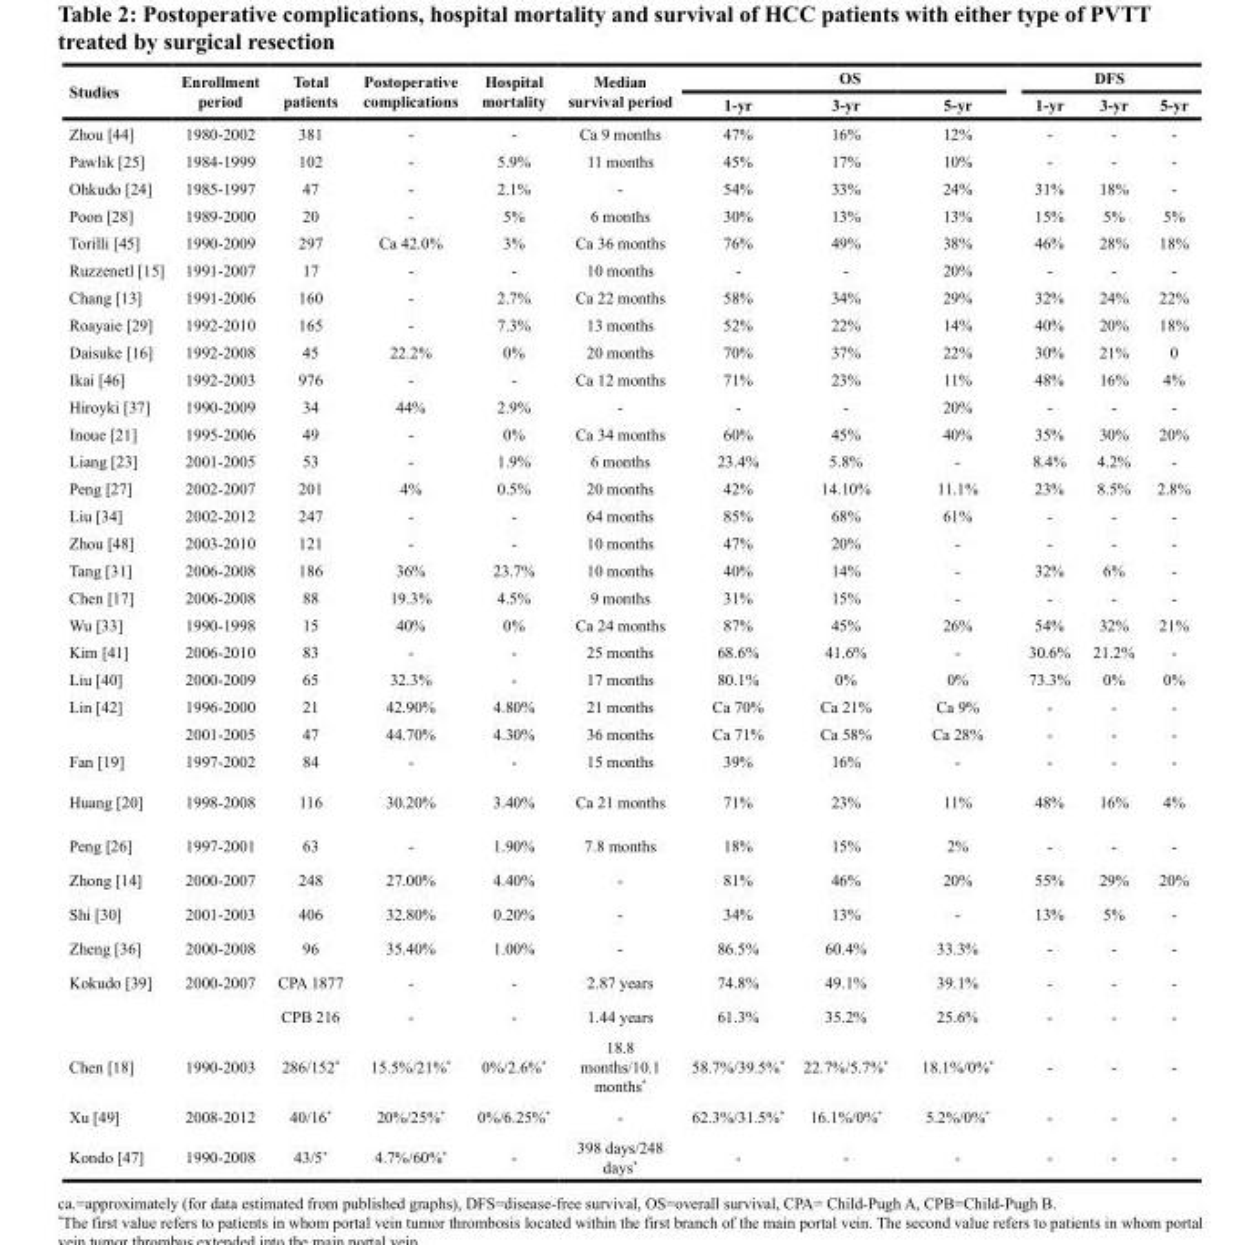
<table><thead><tr><td rowspan="2">Studies</td><td rowspan="2">Enrollment period</td><td rowspan="2">Total patients</td><td rowspan="2">Postoperative complications</td><td rowspan="2">Hospital mortality</td><td rowspan="2">Median survival period</td><td colspan="3">OS</td><td colspan="3">DFS</td></tr><tr><td>1-yr</td><td>3-yr</td><td>5-yr</td><td>1-yr</td><td>3-yr</td><td>5-yr</td></tr></thead><tbody><tr><td>Zhou [44]</td><td>1980-2002</td><td>381</td><td>-</td><td>-</td><td>Ca 9 months</td><td>47%</td><td>16%</td><td>12%</td><td>-</td><td>-</td><td>-</td></tr><tr><td>Pawlik [25]</td><td>1984-1999</td><td>102</td><td>-</td><td>5.9%</td><td>11 months</td><td>45%</td><td>17%</td><td>10%</td><td>-</td><td>-</td><td>-</td></tr><tr><td>Ohkudo [24]</td><td>1985-1997</td><td>47</td><td>-</td><td>2.1%</td><td>-</td><td>54%</td><td>33%</td><td>24%</td><td>31%</td><td>18%</td><td>-</td></tr><tr><td>Poon [28]</td><td>1989-2000</td><td>20</td><td>-</td><td>5%</td><td>6 months</td><td>30%</td><td>13%</td><td>13%</td><td>15%</td><td>5%</td><td>5%</td></tr><tr><td>Torilli [45]</td><td>1990-2009</td><td>297</td><td>Ca 42.0%</td><td>3%</td><td>Ca 36 months</td><td>76%</td><td>49%</td><td>38%</td><td>46%</td><td>28%</td><td>18%</td></tr><tr><td>Ruzzenetl [15]</td><td>1991-2007</td><td>17</td><td>-</td><td>-</td><td>10 months</td><td>-</td><td>-</td><td>20%</td><td>-</td><td>-</td><td>-</td></tr><tr><td>Chang [13]</td><td>1991-2006</td><td>160</td><td>-</td><td>2.7%</td><td>Ca 22 months</td><td>58%</td><td>34%</td><td>29%</td><td>32%</td><td>24%</td><td>22%</td></tr><tr><td>Roayaie [29]</td><td>1992-2010</td><td>165</td><td>-</td><td>7.3%</td><td>13 months</td><td>52%</td><td>22%</td><td>14%</td><td>40%</td><td>20%</td><td>18%</td></tr><tr><td>Daisuke [16]</td><td>1992-2008</td><td>45</td><td>22.2%</td><td>0%</td><td>20 months</td><td>70%</td><td>37%</td><td>22%</td><td>30%</td><td>21%</td><td>0</td></tr><tr><td>Ikai [46]</td><td>1992-2003</td><td>976</td><td>-</td><td>-</td><td>Ca 12 months</td><td>71%</td><td>23%</td><td>11%</td><td>48%</td><td>16%</td><td>4%</td></tr><tr><td>Hiroyki [37]</td><td>1990-2009</td><td>34</td><td>44%</td><td>2.9%</td><td>-</td><td>-</td><td>-</td><td>20%</td><td>-</td><td>-</td><td>-</td></tr><tr><td>Inoue [21]</td><td>1995-2006</td><td>49</td><td>-</td><td>0%</td><td>Ca 34 months</td><td>60%</td><td>45%</td><td>40%</td><td>35%</td><td>30%</td><td>20%</td></tr><tr><td>Liang [23]</td><td>2001-2005</td><td>53</td><td>-</td><td>1.9%</td><td>6 months</td><td>23.4%</td><td>5.8%</td><td>-</td><td>8.4%</td><td>4.2%</td><td>-</td></tr><tr><td>Peng [27]</td><td>2002-2007</td><td>201</td><td>4%</td><td>0.5%</td><td>20 months</td><td>42%</td><td>14.10%</td><td>11.1%</td><td>23%</td><td>8.5%</td><td>2.8%</td></tr><tr><td>Liu [34]</td><td>2002-2012</td><td>247</td><td>-</td><td>-</td><td>64 months</td><td>85%</td><td>68%</td><td>61%</td><td>-</td><td>-</td><td>-</td></tr><tr><td>Zhou [48]</td><td>2003-2010</td><td>121</td><td>-</td><td>-</td><td>10 months</td><td>47%</td><td>20%</td><td>-</td><td>-</td><td>-</td><td>-</td></tr><tr><td>Tang [31]</td><td>2006-2008</td><td>186</td><td>36%</td><td>23.7%</td><td>10 months</td><td>40%</td><td>14%</td><td>-</td><td>32%</td><td>6%</td><td>-</td></tr><tr><td>Chen [17]</td><td>2006-2008</td><td>88</td><td>19.3%</td><td>4.5%</td><td>9 months</td><td>31%</td><td>15%</td><td>-</td><td>-</td><td>-</td><td>-</td></tr><tr><td>Wu [33]</td><td>1990-1998</td><td>15</td><td>40%</td><td>0%</td><td>Ca 24 months</td><td>87%</td><td>45%</td><td>26%</td><td>54%</td><td>32%</td><td>21%</td></tr><tr><td>Kim [41]</td><td>2006-2010</td><td>83</td><td>-</td><td>-</td><td>25 months</td><td>68.6%</td><td>41.6%</td><td>-</td><td>30.6%</td><td>21.2%</td><td>-</td></tr><tr><td>Liu [40]</td><td>2000-2009</td><td>65</td><td>32.3%</td><td>-</td><td>17 months</td><td>80.1%</td><td>0%</td><td>0%</td><td>73.3%</td><td>0%</td><td>0%</td></tr><tr><td rowspan="2">Lin [42]</td><td>1996-2000</td><td>21</td><td>42.90%</td><td>4.80%</td><td>21 months</td><td>Ca 70%</td><td>Ca 21%</td><td>Ca 9%</td><td>-</td><td>-</td><td>-</td></tr><tr><td>2001-2005</td><td>47</td><td>44.70%</td><td>4.30%</td><td>36 months</td><td>Ca 71%</td><td>Ca 58%</td><td>Ca 28%</td><td>-</td><td>-</td><td>-</td></tr><tr><td>Fan [19]</td><td>1997-2002</td><td>84</td><td>-</td><td>-</td><td>15 months</td><td>39%</td><td>16%</td><td>-</td><td>-</td><td>-</td><td>-</td></tr><tr><td>Huang [20]</td><td>1998-2008</td><td>116</td><td>30.20%</td><td>3.40%</td><td>Ca 21 months</td><td>71%</td><td>23%</td><td>11%</td><td>48%</td><td>16%</td><td>4%</td></tr><tr><td>Peng [26]</td><td>1997-2001</td><td>63</td><td>-</td><td>1.90%</td><td>7.8 months</td><td>18%</td><td>15%</td><td>2%</td><td>-</td><td>-</td><td>-</td></tr><tr><td>Zhong [14]</td><td>2000-2007</td><td>248</td><td>27.00%</td><td>4.40%</td><td>-</td><td>81%</td><td>46%</td><td>20%</td><td>55%</td><td>29%</td><td>20%</td></tr><tr><td>Shi [30]</td><td>2001-2003</td><td>406</td><td>32.80%</td><td>0.20%</td><td>-</td><td>34%</td><td>13%</td><td>-</td><td>13%</td><td>5%</td><td>-</td></tr><tr><td>Zheng [36]</td><td>2000-2008</td><td>96</td><td>35.40%</td><td>1.00%</td><td>-</td><td>86.5%</td><td>60.4%</td><td>33.3%</td><td>-</td><td>-</td><td>-</td></tr><tr><td rowspan="2">Kokudo [39]</td><td>2000-2007</td><td>CPA 1877</td><td>-</td><td>-</td><td>2.87 years</td><td>74.8%</td><td>49.1%</td><td>39.1%</td><td>-</td><td>-</td><td>-</td></tr><tr><td></td><td>CPB 216</td><td>-</td><td>-</td><td>1.44 years</td><td>61.3%</td><td>35.2%</td><td>25.6%</td><td>-</td><td>-</td><td>-</td></tr><tr><td>Chen [18]</td><td>1990-2003</td><td>286/152*</td><td>15.5%/21%*</td><td>0%/2.6%*</td><td>18.8 months/10.1 months*</td><td>58.7%/39.5%*</td><td>22.7%/5.7%*</td><td>18.1%/0%*</td><td>-</td><td>-</td><td>-</td></tr><tr><td>Xu [49]</td><td>2008-2012</td><td>40/16*</td><td>20%/25%*</td><td>0%/6.25%*</td><td>-</td><td>62.3%/31.5%*</td><td>16.1%/0%*</td><td>5.2%/0%*</td><td>-</td><td>-</td><td>-</td></tr><tr><td>Kondo [47]</td><td>1990-2008</td><td>43/5*</td><td>4.7%/60%*</td><td>-</td><td>398 days/248 days*</td><td>-</td><td>-</td><td>-</td><td>-</td><td>-</td><td>-</td></tr></tbody></table>